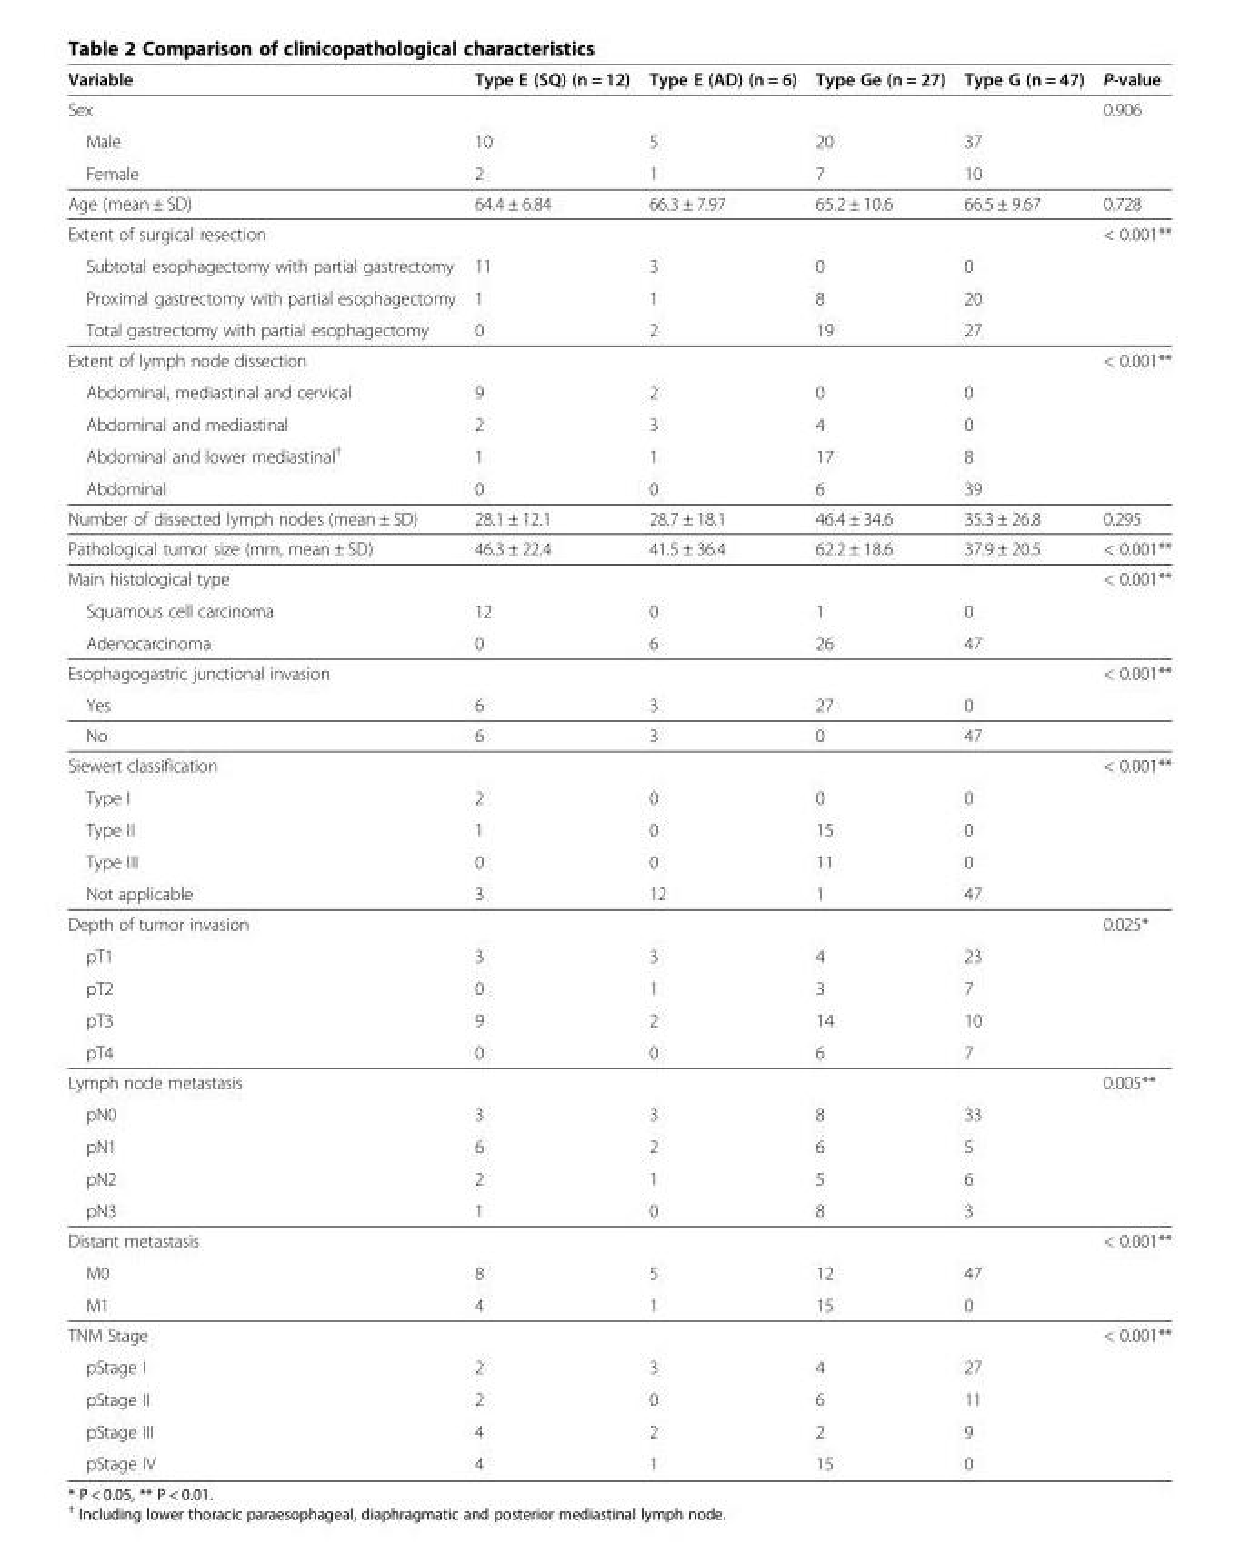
<table><thead><tr><td>Variable</td><td>Type E (SQ) (n = 12)</td><td>Type E (AD) (n = 6)</td><td>Type Ge (n = 27)</td><td>Type G (n = 47)</td><td>P-value</td></tr></thead><tbody><tr><td>Sex</td><td></td><td></td><td></td><td></td><td>0.906</td></tr><tr><td>Male</td><td>10</td><td>5</td><td>20</td><td>37</td><td></td></tr><tr><td>Female</td><td>2</td><td>1</td><td>7</td><td>10</td><td></td></tr><tr><td>Age (mean ± SD)</td><td>64.4 ± 6.84</td><td>66.3 ± 7.97</td><td>65.2 ± 10.6</td><td>66.5 ± 9.67</td><td>0.728</td></tr><tr><td>Extent of surgical resection</td><td></td><td></td><td></td><td></td><td>&lt; 0.001**</td></tr><tr><td>Subtotal esophagectomy with partial gastrectomy</td><td>11</td><td>3</td><td>0</td><td>0</td><td></td></tr><tr><td>Proximal gastrectomy with partial esophagectomy</td><td>1</td><td>1</td><td>8</td><td>20</td><td></td></tr><tr><td>Total gastrectomy with partial esophagectomy</td><td>0</td><td>2</td><td>19</td><td>27</td><td></td></tr><tr><td>Extent of lymph node dissection</td><td></td><td></td><td></td><td></td><td>&lt; 0.001**</td></tr><tr><td>Abdominal, mediastinal and cervical</td><td>9</td><td>2</td><td>0</td><td>0</td><td></td></tr><tr><td>Abdominal and mediastinal</td><td>2</td><td>3</td><td>4</td><td>0</td><td></td></tr><tr><td>Abdominal and lower mediastinal<sup>†</sup></td><td>1</td><td>1</td><td>17</td><td>8</td><td></td></tr><tr><td>Abdominal</td><td>0</td><td>0</td><td>6</td><td>39</td><td></td></tr><tr><td>Number of dissected lymph nodes (mean ± SD)</td><td>28.1 ± 12.1</td><td>28.7 ± 18.1</td><td>46.4 ± 34.6</td><td>35.3 ± 26.8</td><td>0.295</td></tr><tr><td>Pathological tumor size (mm, mean ± SD)</td><td>46.3 ± 22.4</td><td>41.5 ± 36.4</td><td>62.2 ± 18.6</td><td>37.9 ± 20.5</td><td>&lt; 0.001**</td></tr><tr><td>Main histological type</td><td></td><td></td><td></td><td></td><td>&lt; 0.001**</td></tr><tr><td>Squamous cell carcinoma</td><td>12</td><td>0</td><td>1</td><td>0</td><td></td></tr><tr><td>Adenocarcinoma</td><td>0</td><td>6</td><td>26</td><td>47</td><td></td></tr><tr><td>Esophagogastric junctional invasion</td><td></td><td></td><td></td><td></td><td>&lt; 0.001**</td></tr><tr><td>Yes</td><td>6</td><td>3</td><td>27</td><td>0</td><td></td></tr><tr><td>No</td><td>6</td><td>3</td><td>0</td><td>47</td><td></td></tr><tr><td>Siewert classification</td><td></td><td></td><td></td><td></td><td>&lt; 0.001**</td></tr><tr><td>Type I</td><td>2</td><td>0</td><td>0</td><td>0</td><td></td></tr><tr><td>Type II</td><td>1</td><td>0</td><td>15</td><td>0</td><td></td></tr><tr><td>Type III</td><td>0</td><td>0</td><td>11</td><td>0</td><td></td></tr><tr><td>Not applicable</td><td>3</td><td>12</td><td>1</td><td>47</td><td></td></tr><tr><td>Depth of tumor invasion</td><td></td><td></td><td></td><td></td><td>0.025*</td></tr><tr><td>pT1</td><td>3</td><td>3</td><td>4</td><td>23</td><td></td></tr><tr><td>pT2</td><td>0</td><td>1</td><td>3</td><td>7</td><td></td></tr><tr><td>pT3</td><td>9</td><td>2</td><td>14</td><td>10</td><td></td></tr><tr><td>pT4</td><td>0</td><td>0</td><td>6</td><td>7</td><td></td></tr><tr><td>Lymph node metastasis</td><td></td><td></td><td></td><td></td><td>0.005**</td></tr><tr><td>pN0</td><td>3</td><td>3</td><td>8</td><td>33</td><td></td></tr><tr><td>pN1</td><td>6</td><td>2</td><td>6</td><td>5</td><td></td></tr><tr><td>pN2</td><td>2</td><td>1</td><td>5</td><td>6</td><td></td></tr><tr><td>pN3</td><td>1</td><td>0</td><td>8</td><td>3</td><td></td></tr><tr><td>Distant metastasis</td><td></td><td></td><td></td><td></td><td>&lt; 0.001**</td></tr><tr><td>M0</td><td>8</td><td>5</td><td>12</td><td>47</td><td></td></tr><tr><td>M1</td><td>4</td><td>1</td><td>15</td><td>0</td><td></td></tr><tr><td>TNM Stage</td><td></td><td></td><td></td><td></td><td>&lt; 0.001**</td></tr><tr><td>pStage I</td><td>2</td><td>3</td><td>4</td><td>27</td><td></td></tr><tr><td>pStage II</td><td>2</td><td>0</td><td>6</td><td>11</td><td></td></tr><tr><td>pStage III</td><td>4</td><td>2</td><td>2</td><td>9</td><td></td></tr><tr><td>pStage IV</td><td>4</td><td>1</td><td>15</td><td>0</td><td></td></tr></tbody></table>